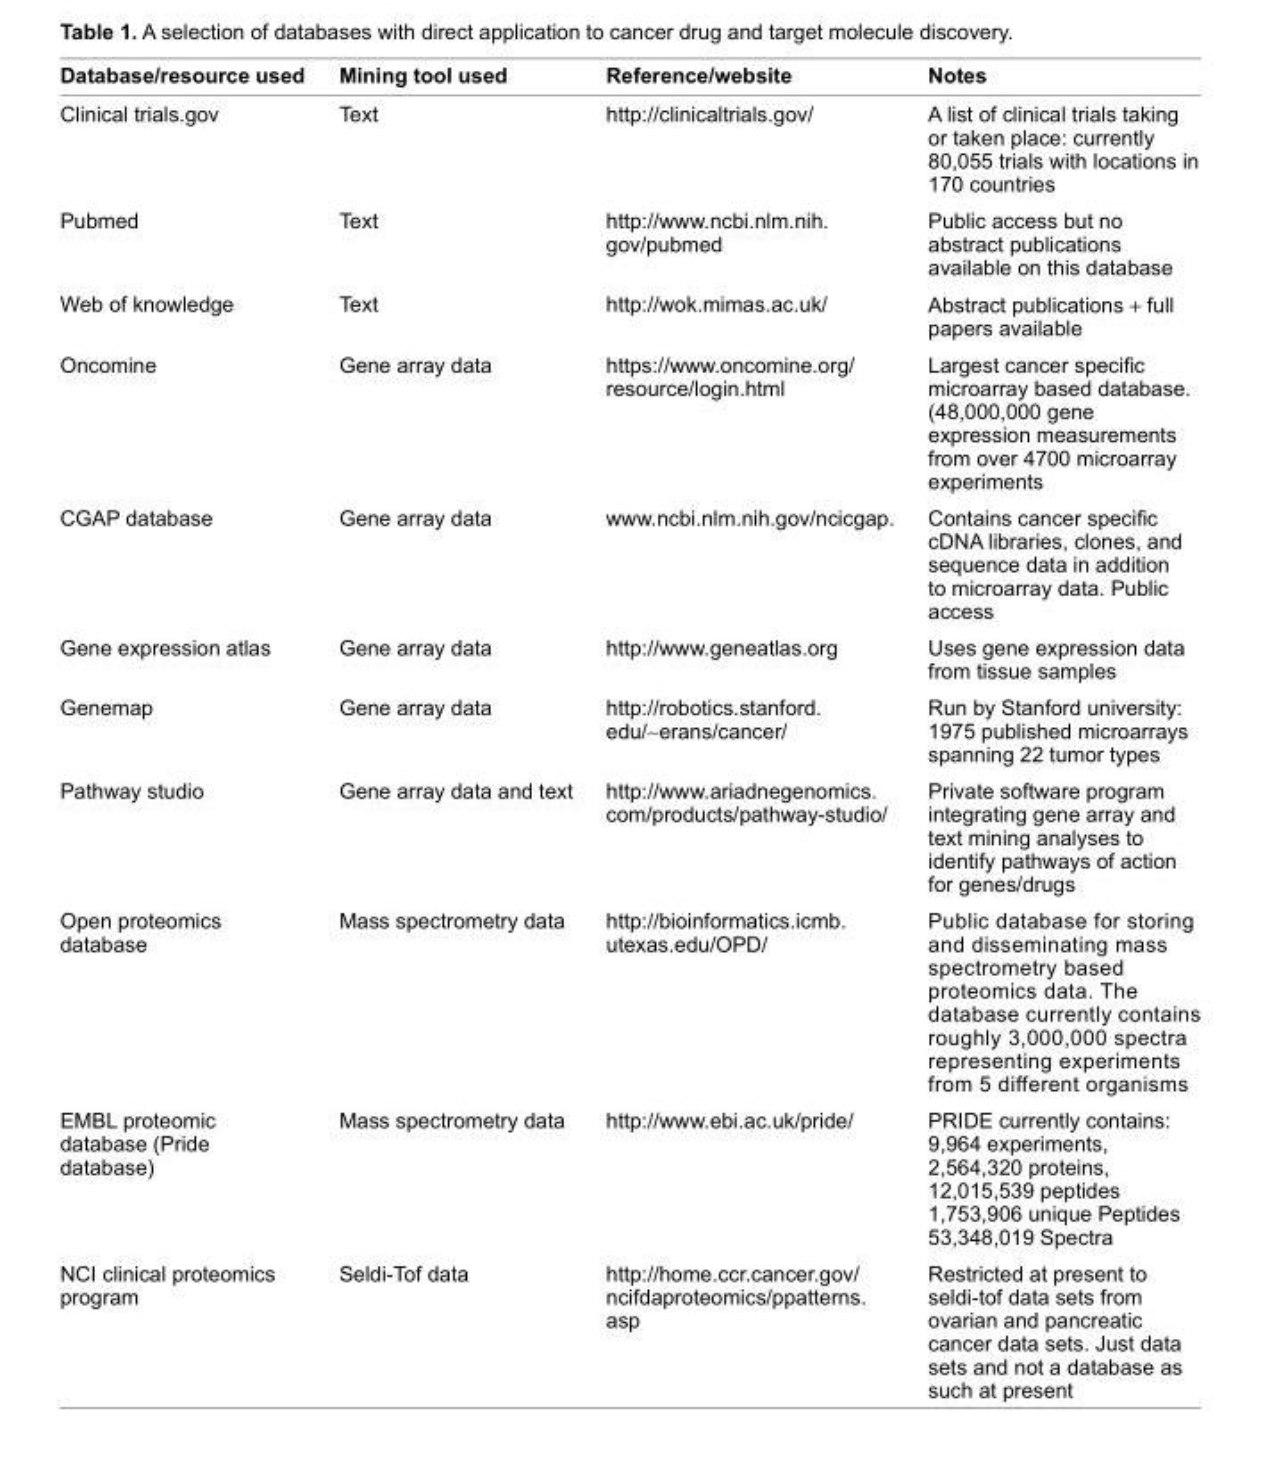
<table><thead><tr><td>Database/resource used</td><td>Mining tool used</td><td>Reference/website</td><td>notes</td></tr></thead><tbody><tr><td>Clinical trials.gov</td><td>Text</td><td>http://clinicaltrials.gov/</td><td>A list of clinical trials taking or taken place: currently 80,055 trials with locations in 170 countries</td></tr><tr><td>Pubmed</td><td>Text</td><td>http://www.ncbi.nlm.nih. gov/pubmed</td><td>Public access but no abstract publications available on this database</td></tr><tr><td>Web of knowledge</td><td>Text</td><td>http://wok.mimas.ac.uk/</td><td>Abstract publications + full papers available</td></tr><tr><td>oncomine</td><td>Gene array data</td><td>https://www.oncomine.org/ resource/login.html</td><td>Largest cancer specific microarray based database. (48,000,000 gene expression measurements from over 4700 microarray experiments</td></tr><tr><td>CGAP database</td><td>Gene array data</td><td>www.ncbi.nlm.nih.gov/ncicgap.</td><td>Contains cancer specific cDnA libraries, clones, and sequence data in addition to microarray data. Public access</td></tr><tr><td>Gene expression atlas</td><td>Gene array data</td><td>http://www.geneatlas.org</td><td>Uses gene expression data from tissue samples</td></tr><tr><td>Genemap</td><td>Gene array data</td><td>http://robotics.stanford. edu/∼erans/cancer/</td><td>run by Stanford university: 1975 published microarrays spanning 22 tumor types</td></tr><tr><td>Pathway studio</td><td>Gene array data and text</td><td>http://www.ariadnegenomics. com/products/pathway-studio/</td><td>Private software program integrating gene array and text mining analyses to identify pathways of action for genes/drugs</td></tr><tr><td>open proteomics database</td><td>mass spectrometry data</td><td>http://bioinformatics.icmb. utexas.edu/oPD/</td><td>Public database for storing and disseminating mass spectrometry based proteomics data. The database currently contains roughly 3,000,000 spectra representing experiments from 5 different organisms</td></tr><tr><td>emBL proteomic database (Pride database)</td><td>mass spectrometry data</td><td>http://www.ebi.ac.uk/pride/</td><td>PrIDe currently contains: 9,964 experiments, 2,564,320 proteins, 12,015,539 peptides 1,753,906 unique Peptides 53,348,019 Spectra</td></tr><tr><td>nCI clinical proteomics program</td><td>Seldi-Tof data</td><td>http://home.ccr.cancer.gov/ ncifdaproteomics/ppatterns. asp</td><td>restricted at present to seldi-tof data sets from ovarian and pancreatic cancer data sets. Just data sets and not a database as such at present</td></tr></tbody></table>